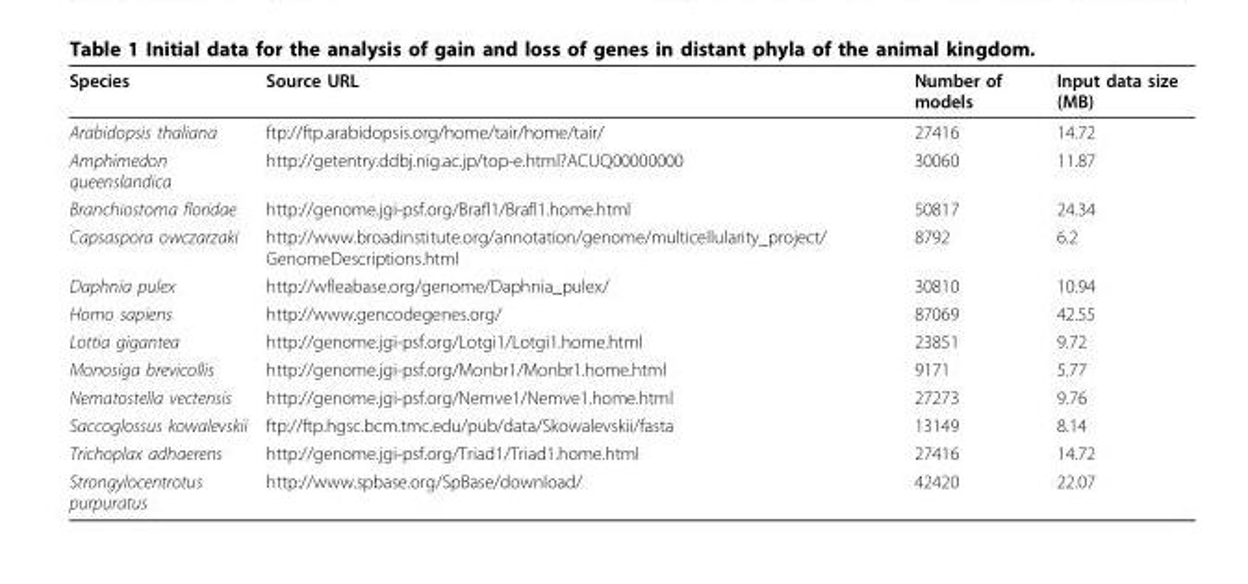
<table><thead><tr><td>Species</td><td>Source URL</td><td>Number of models</td><td>Input data size (MB)</td></tr></thead><tbody><tr><td>Arabidopsis thaliana</td><td>ftp://ftp.arabidopsis.org/home/tair/home/tair/</td><td>27416</td><td>14.72</td></tr><tr><td>Amphimedon queenslandica</td><td>http://getentry.ddbj.nig.ac.jp/top-e.html?ACUQ00000000</td><td>30060</td><td>11.87</td></tr><tr><td>Branchiostoma floridae</td><td>http://genome.jgi-psf.org/Brafl1/Brafl1.home.html</td><td>50817</td><td>24.34</td></tr><tr><td>Capsaspora owczarzaki</td><td>http://www.broadinstitute.org/annotation/genome/multicellularity_project/ GenomeDescriptions.html</td><td>8792</td><td>6.2</td></tr><tr><td>Daphnia pulex</td><td>http://wfleabase.org/genome/Daphnia_pulex/</td><td>30810</td><td>10.94</td></tr><tr><td>Homo sapiens</td><td>http://www.gencodegenes.org/</td><td>87069</td><td>42.55</td></tr><tr><td>Lottia gigantea</td><td>http://genome.jgi-psf.org/Lotgi1/Lotgi1.home.html</td><td>23851</td><td>9.72</td></tr><tr><td>Monosiga brevicollis</td><td>http://genome.jgi-psf.org/Monbr1/Monbr1.home.html</td><td>9171</td><td>5.77</td></tr><tr><td>Nematostella vectensis</td><td>http://genome.jgi-psf.org/Nemve1/Nemve1.home.html</td><td>27273</td><td>9.76</td></tr><tr><td>Saccoglossus kowalevskii</td><td>ftp://ftp.hgsc.bcm.tmc.edu/pub/data/Skowalevskii/fasta</td><td>13149</td><td>8.14</td></tr><tr><td>Trichoplax adhaerens</td><td>http://genome.jgi-psf.org/Triad1/Triad1.home.html</td><td>27416</td><td>14.72</td></tr><tr><td>Strongylocentrotus purpuratus</td><td>http://www.spbase.org/SpBase/download/</td><td>42420</td><td>22.07</td></tr></tbody></table>